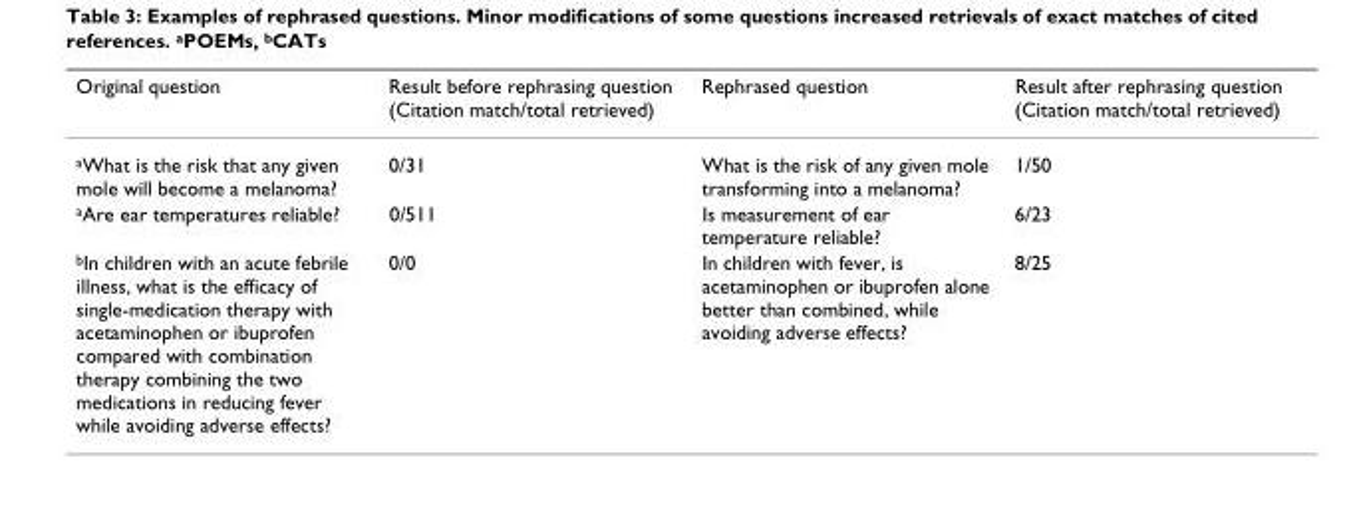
<table><thead><tr><td>Original question</td><td>Result before rephrasing question (Citation match/total retrieved)</td><td>Rephrased question</td><td>Result after rephrasing question (Citation match/total retrieved)</td></tr></thead><tbody><tr><td><sup>a</sup>What is the risk that any given mole will become a melanoma?</td><td>0/31</td><td>What is the risk of any given mole transforming into a melanoma?</td><td>1/50</td></tr><tr><td><sup>a</sup>Are ear temperatures reliable?</td><td>0/511</td><td>Is measurement of ear temperature reliable?</td><td>6/23</td></tr><tr><td><sup>b</sup>In children with an acute febrile illness, what is the efficacy of single-medication therapy with acetaminophen or ibuprofen compared with combination therapy combining the two medications in reducing fever while avoiding adverse effects?</td><td>0/0</td><td>In children with fever, is acetaminophen or ibuprofen alone better than combined, while avoiding adverse effects?</td><td>8/25</td></tr></tbody></table>